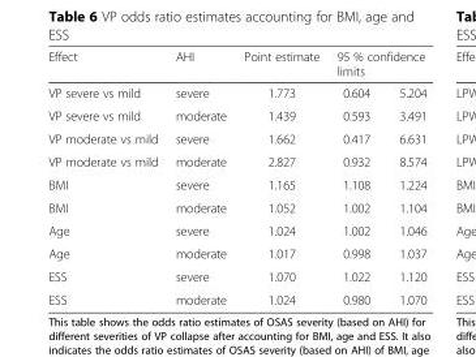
<table><thead><tr><td rowspan="2">Effect VP severe vs mild</td><td rowspan="2">AHI severe</td><td rowspan="2">Point estimate 1.773</td><td colspan="2">95 % confidence limits</td></tr><tr><td>0.604</td><td>5.204</td></tr></thead><tbody><tr><td>VP severe vs mild</td><td>moderate</td><td>1.439</td><td>0.593</td><td>3.491</td></tr><tr><td>VP moderate vs mild</td><td>severe</td><td>1.662</td><td>0.417</td><td>6.631</td></tr><tr><td>VP moderate vs mild</td><td>moderate</td><td>2.827</td><td>0.932</td><td>8.574</td></tr><tr><td>BMI</td><td>severe</td><td>1.165</td><td>1.108</td><td>1.224</td></tr><tr><td>BMI</td><td>moderate</td><td>1.052</td><td>1.002</td><td>1.104</td></tr><tr><td>Age</td><td>severe</td><td>1.024</td><td>1.002</td><td>1.046</td></tr><tr><td>Age</td><td>moderate</td><td>1.017</td><td>0.998</td><td>1.037</td></tr><tr><td>ESS</td><td>severe</td><td>1.070</td><td>1.022</td><td>1.120</td></tr><tr><td>ESS</td><td>moderate</td><td>1.024</td><td>0.980</td><td>1.070</td></tr></tbody></table>